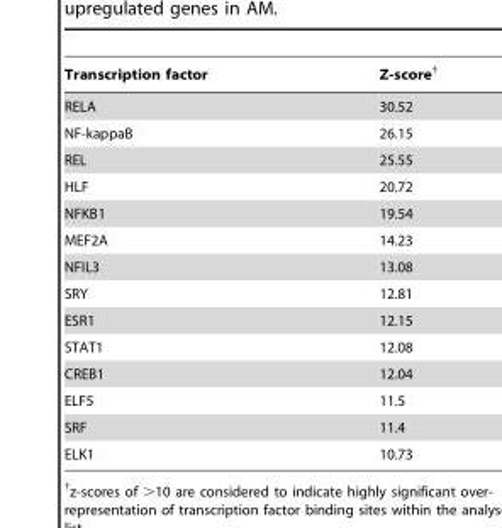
<table><thead><tr><td>Transcription factor</td><td>Z-score†</td></tr></thead><tbody><tr><td>RELA</td><td>30.52</td></tr><tr><td>NF-kappaB</td><td>26.15</td></tr><tr><td>REL</td><td>25.55</td></tr><tr><td>HLF</td><td>20.72</td></tr><tr><td>NFKB1</td><td>19.54</td></tr><tr><td>MEF2A</td><td>14.23</td></tr><tr><td>NFIL3</td><td>13.08</td></tr><tr><td>SRY</td><td>12.81</td></tr><tr><td>ESR1</td><td>12.15</td></tr><tr><td>STAT1</td><td>12.08</td></tr><tr><td>CREB1</td><td>12.04</td></tr><tr><td>ELF5</td><td>11.5</td></tr><tr><td>SRF</td><td>11.4</td></tr><tr><td>ELK1</td><td>10.73</td></tr></tbody></table>